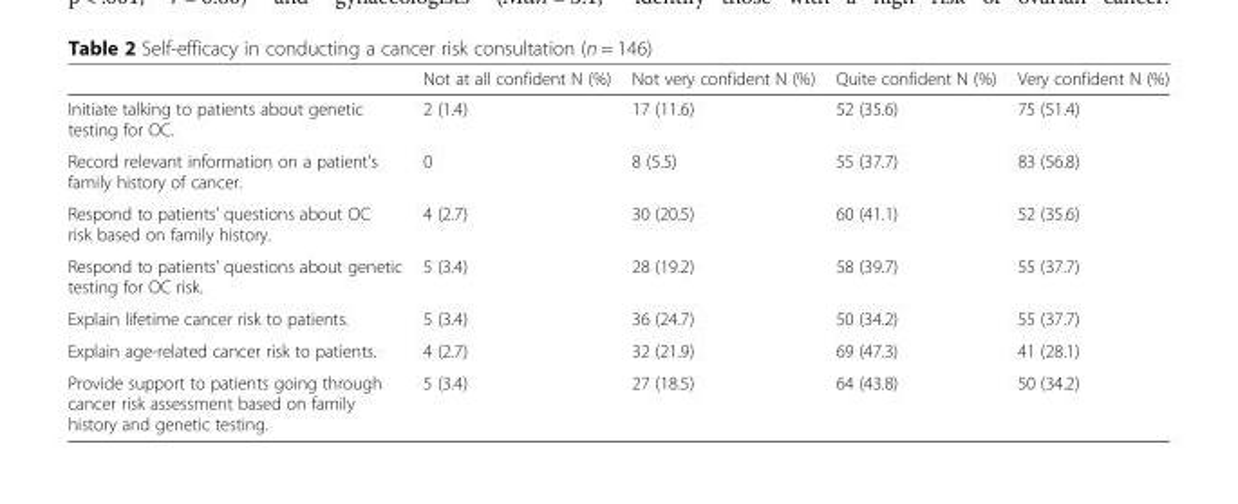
<table><thead><tr><td></td><td>Not at all confident N (%)</td><td>Not very confident N (%)</td><td>Quite confident N (%)</td><td>Very confident N (%)</td></tr></thead><tbody><tr><td>Initiate talking to patients about genetic testing for OC.</td><td>2 (1.4)</td><td>17 (11.6)</td><td>52 (35.6)</td><td>75 (51.4)</td></tr><tr><td>Record relevant information on a patient’s family history of cancer.</td><td>0</td><td>8 (5.5)</td><td>55 (37.7)</td><td>83 (56.8)</td></tr><tr><td>Respond to patients’ questions about OC risk based on family history.</td><td>4 (2.7)</td><td>30 (20.5)</td><td>60 (41.1)</td><td>52 (35.6)</td></tr><tr><td>Respond to patients’ questions about genetic testing for OC risk.</td><td>5 (3.4)</td><td>28 (19.2)</td><td>58 (39.7)</td><td>55 (37.7)</td></tr><tr><td>Explain lifetime cancer risk to patients.</td><td>5 (3.4)</td><td>36 (24.7)</td><td>50 (34.2)</td><td>55 (37.7)</td></tr><tr><td>Explain age-related cancer risk to patients.</td><td>4 (2.7)</td><td>32 (21.9)</td><td>69 (47.3)</td><td>41 (28.1)</td></tr><tr><td>Provide support to patients going through cancer risk assessment based on family history and genetic testing.</td><td>5 (3.4)</td><td>27 (18.5)</td><td>64 (43.8)</td><td>50 (34.2)</td></tr></tbody></table>